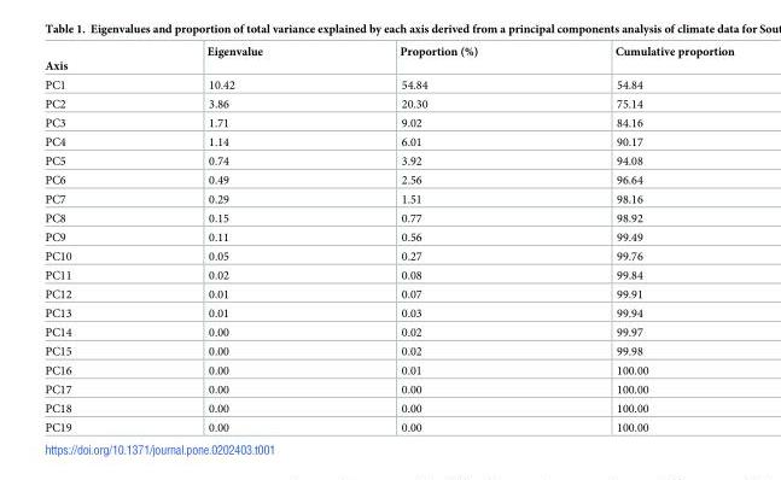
<table><thead><tr><td>Axis</td><td>Eigenvalue</td><td>Proportion (%)</td><td>Cumulative proportion</td></tr></thead><tbody><tr><td>PC1</td><td>10.42</td><td>54.84</td><td>54.84</td></tr><tr><td>PC2</td><td>3.86</td><td>20.30</td><td>75.14</td></tr><tr><td>PC3</td><td>1.71</td><td>9.02</td><td>84.16</td></tr><tr><td>PC4</td><td>1.14</td><td>6.01</td><td>90.17</td></tr><tr><td>PC5</td><td>0.74</td><td>3.92</td><td>94.08</td></tr><tr><td>PC6</td><td>0.49</td><td>2.56</td><td>96.64</td></tr><tr><td>PC7</td><td>0.29</td><td>1.51</td><td>98.16</td></tr><tr><td>PC8</td><td>0.15</td><td>0.77</td><td>98.92</td></tr><tr><td>PC9</td><td>0.11</td><td>0.56</td><td>99.49</td></tr><tr><td>PC10</td><td>0.05</td><td>0.27</td><td>99.76</td></tr><tr><td>PC11</td><td>0.02</td><td>0.08</td><td>99.84</td></tr><tr><td>PC12</td><td>0.01</td><td>0.07</td><td>99.91</td></tr><tr><td>PC13</td><td>0.01</td><td>0.03</td><td>99.94</td></tr><tr><td>PC14</td><td>0.00</td><td>0.02</td><td>99.97</td></tr><tr><td>PC15</td><td>0.00</td><td>0.02</td><td>99.98</td></tr><tr><td>PC16</td><td>0.00</td><td>0.01</td><td>100.00</td></tr><tr><td>PC17</td><td>0.00</td><td>0.00</td><td>100.00</td></tr><tr><td>PC18</td><td>0.00</td><td>0.00</td><td>100.00</td></tr><tr><td>PC19</td><td>0.00</td><td>0.00</td><td>100.00</td></tr></tbody></table>